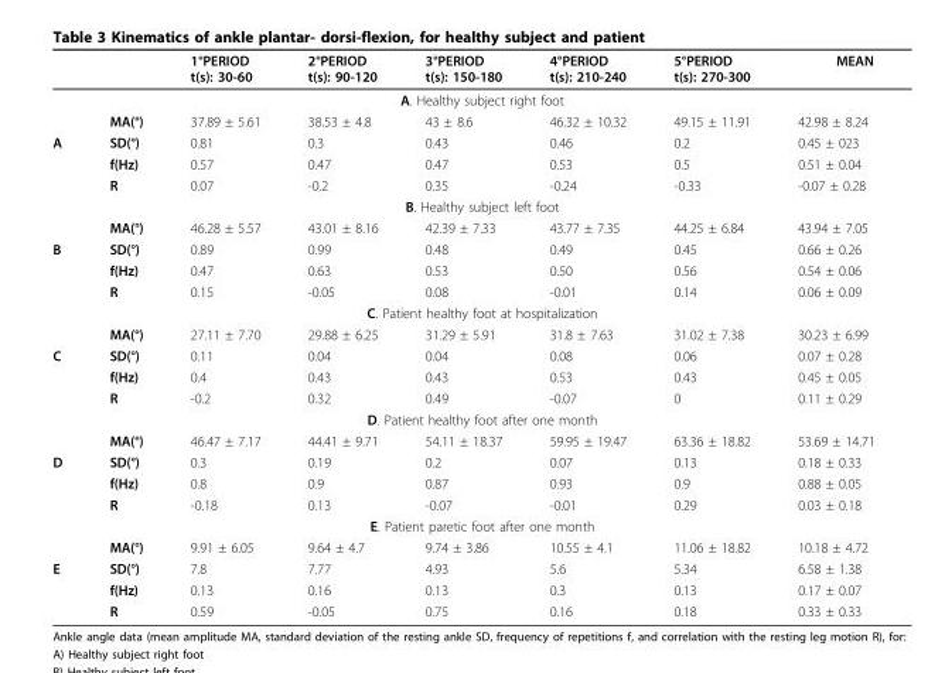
<table><thead><tr><td></td><td></td><td>1°PERIOD t(s): 30-60</td><td>2°PERIOD t(s): 90-120</td><td>3°PERIOD t(s): 150-180</td><td>4°PERIOD t(s): 210-240</td><td>5°PERIOD t(s): 270-300</td><td>MEAN</td></tr></thead><tbody><tr><td colspan="8">A. Healthy subject right foot</td></tr><tr><td></td><td>MA(°)</td><td>37.89 ± 5.61</td><td>38.53 ± 4.8</td><td>43 ± 8.6</td><td>46.32 ± 10.32</td><td>49.15 ± 11.91</td><td>42.98 ± 8.24</td></tr><tr><td rowspan="3">A</td><td>SD(°)</td><td>0.81</td><td>0.3</td><td>0.43</td><td>0.46</td><td>0.2</td><td>0.45 ± 023</td></tr><tr><td>f(Hz)</td><td>0.57</td><td>0.47</td><td>0.47</td><td>0.53</td><td>0.5</td><td>0.51 ± 0.04</td></tr><tr><td>R</td><td>0.07</td><td>-0.2</td><td>0.35</td><td>-0.24</td><td>-0.33</td><td>-0.07 ± 0.28</td></tr><tr><td colspan="8">B. Healthy subject left foot</td></tr><tr><td></td><td>MA(°)</td><td>46.28 ± 5.57</td><td>43.01 ± 8.16</td><td>42.39 ± 7.33</td><td>43.77 ± 7.35</td><td>44.25 ± 6.84</td><td>43.94 ± 7.05</td></tr><tr><td rowspan="3">B</td><td>SD(°)</td><td>0.89</td><td>0.99</td><td>0.48</td><td>0.49</td><td>0.45</td><td>0.66 ± 0.26</td></tr><tr><td>f(Hz)</td><td>0.47</td><td>0.63</td><td>0.53</td><td>0.50</td><td>0.56</td><td>0.54 ± 0.06</td></tr><tr><td>R</td><td>0.15</td><td>-0.05</td><td>0.08</td><td>-0.01</td><td>0.14</td><td>0.06 ± 0.09</td></tr><tr><td colspan="8">C. Patient healthy foot at hospitalization</td></tr><tr><td></td><td>MA(°)</td><td>27.11 ± 7.70</td><td>29.88 ± 6.25</td><td>31.29 ± 5.91</td><td>31.8 ± 7.63</td><td>31.02 ± 7.38</td><td>30.23 ± 6.99</td></tr><tr><td rowspan="3">C</td><td>SD(°)</td><td>0.11</td><td>0.04</td><td>0.04</td><td>0.08</td><td>0.06</td><td>0.07 ± 0.28</td></tr><tr><td>f(Hz)</td><td>0.4</td><td>0.43</td><td>0.43</td><td>0.53</td><td>0.43</td><td>0.45 ± 0.05</td></tr><tr><td>R</td><td>-0.2</td><td>0.32</td><td>0.49</td><td>-0.07</td><td>0</td><td>0.11 ± 0.29</td></tr><tr><td colspan="8">D. Patient healthy foot after one month</td></tr><tr><td></td><td>MA(°)</td><td>46.47 ± 7.17</td><td>44.41 ± 9.71</td><td>54.11 ± 18.37</td><td>59.95 ± 19.47</td><td>63.36 ± 18.82</td><td>53.69 ± 14.71</td></tr><tr><td rowspan="3">D</td><td>SD(°)</td><td>0.3</td><td>0.19</td><td>0.2</td><td>0.07</td><td>0.13</td><td>0.18 ± 0.33</td></tr><tr><td>f(Hz)</td><td>0.8</td><td>0.9</td><td>0.87</td><td>0.93</td><td>0.9</td><td>0.88 ± 0.05</td></tr><tr><td>R</td><td>-0.18</td><td>0.13</td><td>-0.07</td><td>-0.01</td><td>0.29</td><td>0.03 ± 0.18</td></tr><tr><td colspan="8">E. Patient paretic foot after one month</td></tr><tr><td></td><td>MA(°)</td><td>9.91 ± 6.05</td><td>9.64 ± 4.7</td><td>9.74 ± 3.86</td><td>10.55 ± 4.1</td><td>11.06 ± 18.82</td><td>10.18 ± 4.72</td></tr><tr><td rowspan="3">E</td><td>SD(°)</td><td>7.8</td><td>7.77</td><td>4.93</td><td>5.6</td><td>5.34</td><td>6.58 ± 1.38</td></tr><tr><td>f(Hz)</td><td>0.13</td><td>0.16</td><td>0.13</td><td>0.3</td><td>0.13</td><td>0.17 ± 0.07</td></tr><tr><td>R</td><td>0.59</td><td>-0.05</td><td>0.75</td><td>0.16</td><td>0.18</td><td>0.33 ± 0.33</td></tr></tbody></table>